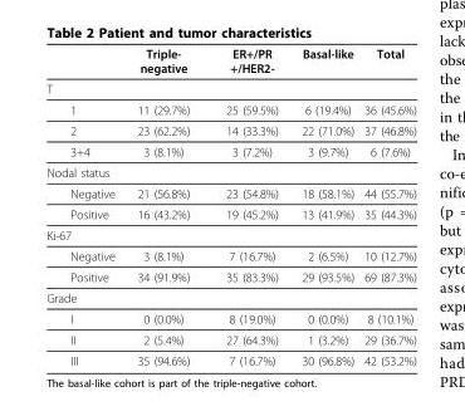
<table><thead><tr><td></td><td>Triple- negative</td><td>ER+/PR +/HER2-</td><td>Basal-like</td><td>Total</td></tr></thead><tbody><tr><td colspan="5">T</td></tr><tr><td>1</td><td>11 (29.7%)</td><td>25 (59.5%)</td><td>6 (19.4%)</td><td>36 (45.6%)</td></tr><tr><td>2</td><td>23 (62.2%)</td><td>14 (33.3%)</td><td>22 (71.0%)</td><td>37 (46.8%)</td></tr><tr><td>3+4</td><td>3 (8.1%)</td><td>3 (7.2%)</td><td>3 (9.7%)</td><td>6 (7.6%)</td></tr><tr><td colspan="5">Nodal status</td></tr><tr><td>Negative</td><td>21 (56.8%)</td><td>23 (54.8%)</td><td>18 (58.1%)</td><td>44 (55.7%)</td></tr><tr><td>Positive</td><td>16 (43.2%)</td><td>19 (45.2%)</td><td>13 (41.9%)</td><td>35 (44.3%)</td></tr><tr><td colspan="5">Ki-67</td></tr><tr><td>Negative</td><td>3 (8.1%)</td><td>7 (16.7%)</td><td>2 (6.5%)</td><td>10 (12.7%)</td></tr><tr><td>Positive</td><td>34 (91.9%)</td><td>35 (83.3%)</td><td>29 (93.5%)</td><td>69 (87.3%)</td></tr><tr><td colspan="5">Grade</td></tr><tr><td>I</td><td>0 (0.0%)</td><td>8 (19.0%)</td><td>0 (0.0%)</td><td>8 (10.1%)</td></tr><tr><td>II</td><td>2 (5.4%)</td><td>27 (64.3%)</td><td>1 (3.2%)</td><td>29 (36.7%)</td></tr><tr><td>III</td><td>35 (94.6%)</td><td>7 (16.7%)</td><td>30 (96.8%)</td><td>42 (53.2%)</td></tr></tbody></table>